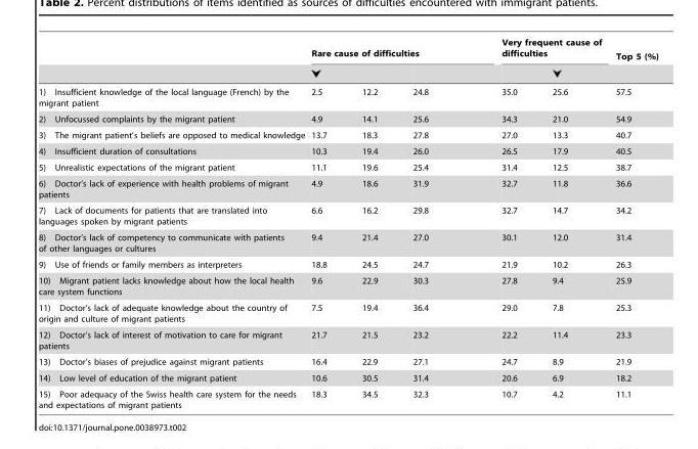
<table><thead><tr><td rowspan="2">1) Insufficient knowledge of the local language (French) by the migrant patient</td><td colspan="3">Rare cause of difficulties</td><td colspan="2">Very frequent cause of difficulties</td><td rowspan="2">Top 5 (%) 57.5</td></tr><tr><td>2.5</td><td>12.2</td><td>24.8</td><td>35.0</td><td>25.6</td></tr></thead><tbody><tr><td>2) Unfocussed complaints by the migrant patient</td><td>4.9</td><td>14.1</td><td>25.6</td><td>34.3</td><td>21.0</td><td>54.9</td></tr><tr><td>3) The migrant patient’s beliefs are opposed to medical knowledge</td><td>13.7</td><td>18.3</td><td>27.8</td><td>27.0</td><td>13.3</td><td>40.7</td></tr><tr><td>4) Insufficient duration of consultations</td><td>10.3</td><td>19.4</td><td>26.0</td><td>26.5</td><td>17.9</td><td>40.5</td></tr><tr><td>5) Unrealistic expectations of the migrant patient</td><td>11.1</td><td>19.6</td><td>25.4</td><td>31.4</td><td>12.5</td><td>38.7</td></tr><tr><td>6) Doctor’s lack of experience with health problems of migrant patients</td><td>4.9</td><td>18.6</td><td>31.9</td><td>32.7</td><td>11.8</td><td>36.6</td></tr><tr><td>7) Lack of documents for patients that are translated into languages spoken by migrant patients</td><td>6.6</td><td>16.2</td><td>29.8</td><td>32.7</td><td>14.7</td><td>34.2</td></tr><tr><td>8) Doctor’s lack of competency to communicate with patients of other languages or cultures</td><td>9.4</td><td>21.4</td><td>27.0</td><td>30.1</td><td>12.0</td><td>31.4</td></tr><tr><td>9) Use of friends or family members as interpreters</td><td>18.8</td><td>24.5</td><td>24.7</td><td>21.9</td><td>10.2</td><td>26.3</td></tr><tr><td>10) Migrant patient lacks knowledge about how the local health care system functions</td><td>9.6</td><td>22.9</td><td>30.3</td><td>27.8</td><td>9.4</td><td>25.9</td></tr><tr><td>11) Doctor’s lack of adequate knowledge about the country of origin and culture of migrant patients</td><td>7.5</td><td>19.4</td><td>36.4</td><td>29.0</td><td>7.8</td><td>25.3</td></tr><tr><td>12) Doctor’s lack of interest of motivation to care for migrant patients</td><td>21.7</td><td>21.5</td><td>23.2</td><td>22.2</td><td>11.4</td><td>23.3</td></tr><tr><td>13) Doctor’s biases of prejudice against migrant patients</td><td>16.4</td><td>22.9</td><td>27.1</td><td>24.7</td><td>8.9</td><td>21.9</td></tr><tr><td>14) Low level of education of the migrant patient</td><td>10.6</td><td>30.5</td><td>31.4</td><td>20.6</td><td>6.9</td><td>18.2</td></tr><tr><td>15) Poor adequacy of the Swiss health care system for the needs and expectations of migrant patients</td><td>18.3</td><td>34.5</td><td>32.3</td><td>10.7</td><td>4.2</td><td>11.1</td></tr></tbody></table>